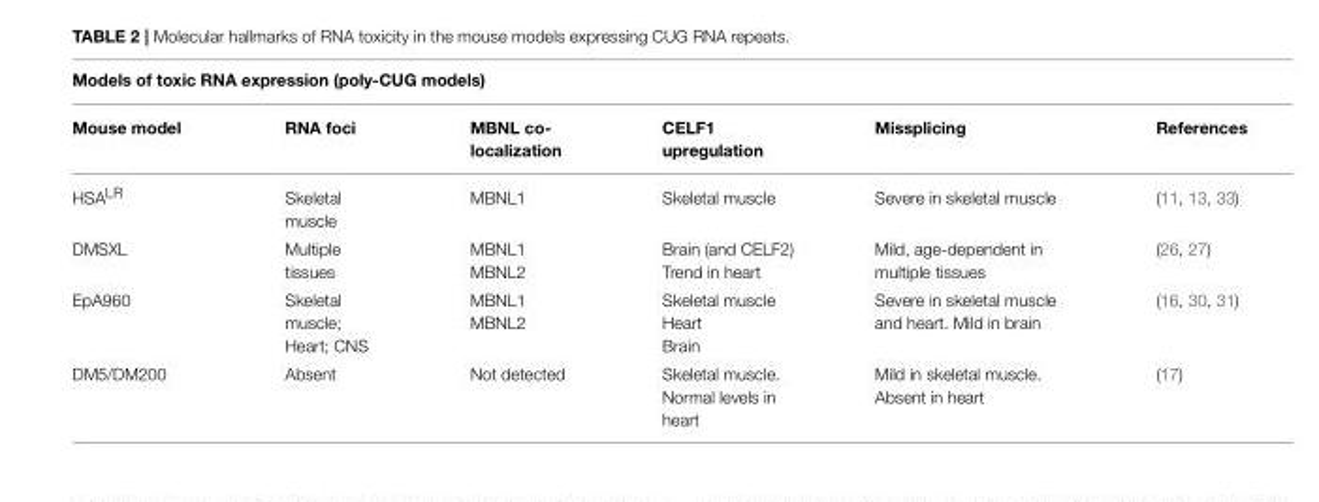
<table><thead><tr><td colspan="6">Models of toxic RNA expression (poly-CUG models)</td></tr><tr><td>Mouse model</td><td>RNA foci</td><td>MBNL co- localization</td><td>CELF1 upregulation</td><td>Missplicing</td><td>References</td></tr></thead><tbody><tr><td>HSA<sup>LR</sup></td><td>Skeletal muscle</td><td>MBNL1</td><td>Skeletal muscle</td><td>Severe in skeletal muscle</td><td>(11, 13, 33)</td></tr><tr><td>DMSXL</td><td>Multiple tissues</td><td>MBNL1 MBNL2</td><td>Brain (and CELF2) Trend in heart</td><td>Mild, age-dependent in multiple tissues</td><td>(26, 27)</td></tr><tr><td>EpA960</td><td>Skeletal muscle; Heart; CNS</td><td>MBNL1 MBNL2</td><td>Skeletal muscle Heart Brain</td><td>Severe in skeletal muscle and heart. Mild in brain</td><td>(16, 30, 31)</td></tr><tr><td>DM5/DM200</td><td>Absent</td><td>Not detected</td><td>Skeletal muscle. Normal levels in heart</td><td>Mild in skeletal muscle. Absent in heart</td><td>(17)</td></tr></tbody></table>